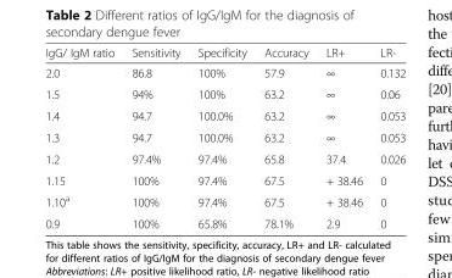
<table><thead><tr><td>IgG/ IgM ratio</td><td>Sensitivity</td><td>Specificity</td><td>Accuracy</td><td>LR+</td><td>LR-</td></tr></thead><tbody><tr><td>2.0</td><td>86.8</td><td>100%</td><td>57.9</td><td>∞</td><td>0.132</td></tr><tr><td>1.5</td><td>94%</td><td>100%</td><td>63.2</td><td>∞</td><td>0.06</td></tr><tr><td>1.4</td><td>94.7</td><td>100.0%</td><td>63.2</td><td>∞</td><td>0.053</td></tr><tr><td>1.3</td><td>94.7</td><td>100.0%</td><td>63.2</td><td>∞</td><td>0.053</td></tr><tr><td>1.2</td><td>97.4%</td><td>97.4%</td><td>65.8</td><td>37.4</td><td>0.026</td></tr><tr><td>1.15</td><td>100%</td><td>97.4%</td><td>67.5</td><td>+ 38.46</td><td>0</td></tr><tr><td>1.10<sup>a</sup></td><td>100%</td><td>97.4%</td><td>67.5</td><td>+ 38.46</td><td>0</td></tr><tr><td>0.9</td><td>100%</td><td>65.8%</td><td>78.1%</td><td>2.9</td><td>0</td></tr></tbody></table>